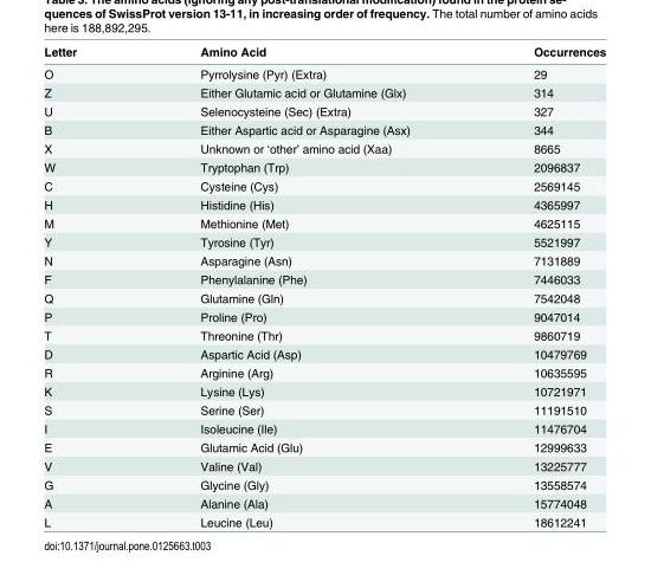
<table><thead><tr><td>Letter</td><td>Amino Acid</td><td>Occurrences</td></tr></thead><tbody><tr><td>O</td><td>Pyrrolysine (Pyr) (Extra)</td><td>29</td></tr><tr><td>Z</td><td>Either Glutamic acid or Glutamine (Glx)</td><td>314</td></tr><tr><td>U</td><td>Selenocysteine (Sec) (Extra)</td><td>327</td></tr><tr><td>B</td><td>Either Aspartic acid or Asparagine (Asx)</td><td>344</td></tr><tr><td>X</td><td>Unknown or ‘other’ amino acid (Xaa)</td><td>8665</td></tr><tr><td>W</td><td>Tryptophan (Trp)</td><td>2096837</td></tr><tr><td>C</td><td>Cysteine (Cys)</td><td>2569145</td></tr><tr><td>H</td><td>Histidine (His)</td><td>4365997</td></tr><tr><td>M</td><td>Methionine (Met)</td><td>4625115</td></tr><tr><td>Y</td><td>Tyrosine (Tyr)</td><td>5521997</td></tr><tr><td>N</td><td>Asparagine (Asn)</td><td>7131889</td></tr><tr><td>F</td><td>Phenylalanine (Phe)</td><td>7446033</td></tr><tr><td>Q</td><td>Glutamine (Gln)</td><td>7542048</td></tr><tr><td>P</td><td>Proline (Pro)</td><td>9047014</td></tr><tr><td>T</td><td>Threonine (Thr)</td><td>9860719</td></tr><tr><td>D</td><td>Aspartic Acid (Asp)</td><td>10479769</td></tr><tr><td>R</td><td>Arginine (Arg)</td><td>10635595</td></tr><tr><td>K</td><td>Lysine (Lys)</td><td>10721971</td></tr><tr><td>S</td><td>Serine (Ser)</td><td>11191510</td></tr><tr><td>I</td><td>Isoleucine (Ile)</td><td>11476704</td></tr><tr><td>E</td><td>Glutamic Acid (Glu)</td><td>12999633</td></tr><tr><td>V</td><td>Valine (Val)</td><td>13225777</td></tr><tr><td>G</td><td>Glycine (Gly)</td><td>13558574</td></tr><tr><td>A</td><td>Alanine (Ala)</td><td>15774048</td></tr><tr><td>L</td><td>Leucine (Leu)</td><td>18612241</td></tr></tbody></table>